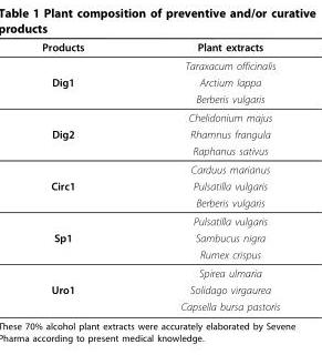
<table><thead><tr><td>Products</td><td>Plant extracts</td></tr></thead><tbody><tr><td></td><td>Taraxacum officinalis</td></tr><tr><td rowspan="3">Dig1</td><td>Arctium lappa</td></tr><tr><td>Berberis vulgaris</td></tr><tr><td>Chelidonium majus</td></tr><tr><td rowspan="3">Dig2</td><td>Rhamnus frangula</td></tr><tr><td>Raphanus sativus</td></tr><tr><td>Carduus marianus</td></tr><tr><td rowspan="3">Circ1</td><td>Pulsatilla vulgaris</td></tr><tr><td>Berberis vulgaris</td></tr><tr><td>Pulsatilla vulgaris</td></tr><tr><td rowspan="3">Sp1</td><td>Sambucus nigra</td></tr><tr><td>Rumex crispus</td></tr><tr><td>Spirea ulmaria</td></tr><tr><td rowspan="2">Uro1</td><td>Solidago virgaurea</td></tr><tr><td>Capsella bursa pastoris</td></tr></tbody></table>